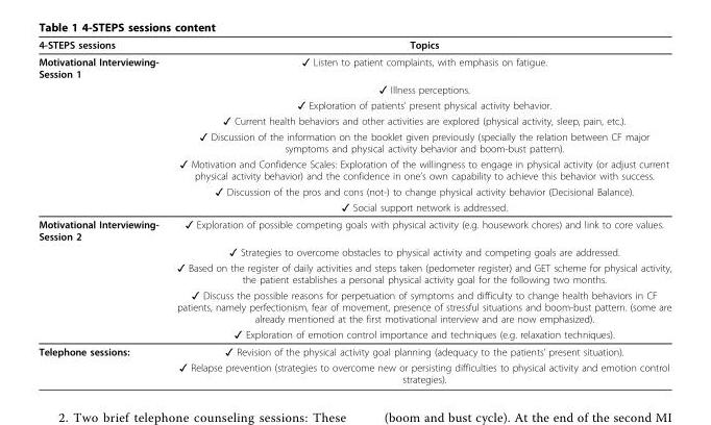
<table><thead><tr><td>4-STEPS sessions</td><td>Topics</td></tr></thead><tbody><tr><td rowspan="8">Motivational Interviewing- Session 1</td><td>✓ Listen to patient complaints, with emphasis on fatigue.</td></tr><tr><td>✓ Illness perceptions.</td></tr><tr><td>✓ Exploration of patients’ present physical activity behavior.</td></tr><tr><td>✓ Current health behaviors and other activities are explored (physical activity, sleep, pain, etc.).</td></tr><tr><td>✓ Discussion of the information on the booklet given previously (specially the relation between CF major symptoms and physical activity behavior and boom-bust pattern).</td></tr><tr><td>✓ Motivation and Confidence Scales: Exploration of the willingness to engage in physical activity (or adjust current physical activity behavior) and the confidence in one’s own capability to achieve this behavior with success.</td></tr><tr><td>✓ Discussion of the pros and cons (not-) to change physical activity behavior (Decisional Balance).</td></tr><tr><td>✓ Social support network is addressed.</td></tr><tr><td rowspan="5">Motivational Interviewing- Session 2</td><td>✓ Exploration of possible competing goals with physical activity (e.g. housework chores) and link to core values.</td></tr><tr><td>✓ Strategies to overcome obstacles to physical activity and competing goals are addressed.</td></tr><tr><td>✓ Based on the register of daily activities and steps taken (pedometer register) and GET scheme for physical activity, the patient establishes a personal physical activity goal for the following two months.</td></tr><tr><td>✓ Discuss the possible reasons for perpetuation of symptoms and difficulty to change health behaviors in CF patients, namely perfectionism, fear of movement, presence of stressful situations and boom-bust pattern. (some are already mentioned at the first motivational interview and are now emphasized).</td></tr><tr><td>✓ Exploration of emotion control importance and techniques (e.g. relaxation techniques).</td></tr><tr><td rowspan="2">Telephone sessions:</td><td>✓ Revision of the physical activity goal planning (adequacy to the patients’ present situation).</td></tr><tr><td>✓ Relapse prevention (strategies to overcome new or persisting difficulties to physical activity and emotion control strategies).</td></tr></tbody></table>